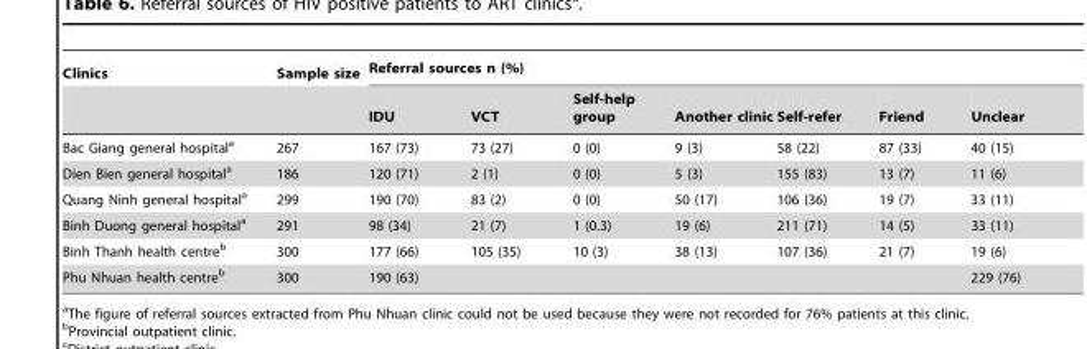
<table><thead><tr><td rowspan="2">Clinics</td><td rowspan="2">Sample size</td><td colspan="7">Referral sources n (%)</td></tr><tr><td>IDU</td><td>VCT</td><td>Self-help group</td><td>Another clinic</td><td>Self-refer</td><td>Friend</td><td>Unclear</td></tr></thead><tbody><tr><td>Bac Giang general hospital<sup>a</sup></td><td>267</td><td>167 (73)</td><td>73 (27)</td><td>0 (0)</td><td>9 (3)</td><td>58 (22)</td><td>87 (33)</td><td>40 (15)</td></tr><tr><td>Dien Bien general hospital<sup>a</sup></td><td>186</td><td>120 (71)</td><td>2 (1)</td><td>0 (0)</td><td>5 (3)</td><td>155 (83)</td><td>13 (7)</td><td>11 (6)</td></tr><tr><td>Quang Ninh general hospital<sup>a</sup></td><td>299</td><td>190 (70)</td><td>83 (2)</td><td>0 (0)</td><td>50 (17)</td><td>106 (36)</td><td>19 (7)</td><td>33 (11)</td></tr><tr><td>Binh Duong general hospital<sup>a</sup></td><td>291</td><td>98 (34)</td><td>21 (7)</td><td>1 (0.3)</td><td>19 (6)</td><td>211 (71)</td><td>14 (5)</td><td>33 (11)</td></tr><tr><td>Binh Thanh health centre<sup>b</sup></td><td>300</td><td>177 (66)</td><td>105 (35)</td><td>10 (3)</td><td>38 (13)</td><td>107 (36)</td><td>21 (7)</td><td>19 (6)</td></tr><tr><td>Phu Nhuan health centre<sup>b</sup></td><td>300</td><td>190 (63)</td><td></td><td></td><td></td><td></td><td></td><td>229 (76)</td></tr></tbody></table>